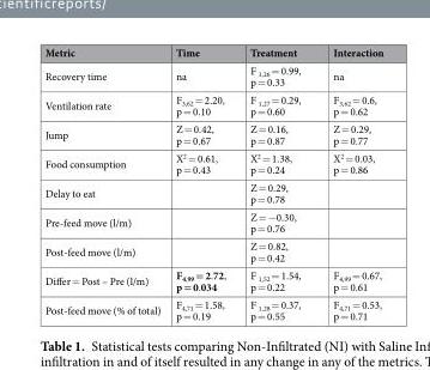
<table><thead><tr><td>Metric</td><td>Time</td><td>Treatment</td><td>Interaction</td></tr></thead><tbody><tr><td>Recovery time</td><td>na</td><td>F <sub>1,26</sub> = 0.99, p = 0.33</td><td>na</td></tr><tr><td>Ventilation rate</td><td>F<sub>3,62</sub> = 2.20, p = 0.10</td><td>F <sub>1,27</sub> = 0.29, p = 0.60</td><td>F<sub>3,62</sub> = 0.6, p = 0.62</td></tr><tr><td>Jump</td><td>Z = 0.42, p = 0.67</td><td>Z = 0.16, p = 0.87</td><td>Z = 0.29, p = 0.77</td></tr><tr><td>Food consumption</td><td>X<sup>2</sup> = 0.61, p = 0.43</td><td>X<sup>2</sup> = 1.38, p = 0.24</td><td>X<sup>2</sup> = 0.03, p = 0.86</td></tr><tr><td>Delay to eat</td><td></td><td>Z = 0.29, p = 0.78</td><td></td></tr><tr><td>Pre-feed move (l/m)</td><td></td><td>Z = −0.30, p = 0.76</td><td></td></tr><tr><td>Post-feed move (l/m)</td><td></td><td>Z = 0.82, p = 0.42</td><td></td></tr><tr><td>Differ = Post – Pre (l/m)</td><td>F<sub>4,99</sub> = 2.72, p = 0.034</td><td>F <sub>1,52</sub> = 1.54, p = 0.22</td><td>F<sub>4,99</sub> = 0.67, p = 0.61</td></tr><tr><td>Post-feed move (% of total)</td><td>F<sub>4,71</sub> = 1.58, p = 0.19</td><td>F <sub>1,28</sub> = 0.37, p = 0.55</td><td>F<sub>4,71</sub> = 0.53, p = 0.71</td></tr></tbody></table>